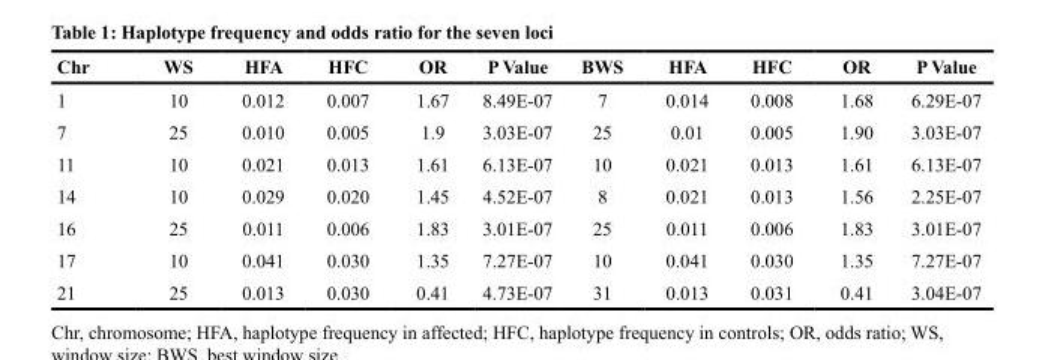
<table><thead><tr><td>Chr</td><td>WS</td><td>HFA</td><td>HFC</td><td>OR</td><td>P Value</td><td>BWS</td><td>HFA</td><td>HFC</td><td>OR</td><td>P Value</td></tr></thead><tbody><tr><td>1</td><td>10</td><td>0.012</td><td>0.007</td><td>1.67</td><td>8.49E-07</td><td>7</td><td>0.014</td><td>0.008</td><td>1.68</td><td>6.29E-07</td></tr><tr><td>7</td><td>25</td><td>0.010</td><td>0.005</td><td>1.9</td><td>3.03E-07</td><td>25</td><td>0.01</td><td>0.005</td><td>1.90</td><td>3.03E-07</td></tr><tr><td>11</td><td>10</td><td>0.021</td><td>0.013</td><td>1.61</td><td>6.13E-07</td><td>10</td><td>0.021</td><td>0.013</td><td>1.61</td><td>6.13E-07</td></tr><tr><td>14</td><td>10</td><td>0.029</td><td>0.020</td><td>1.45</td><td>4.52E-07</td><td>8</td><td>0.021</td><td>0.013</td><td>1.56</td><td>2.25E-07</td></tr><tr><td>16</td><td>25</td><td>0.011</td><td>0.006</td><td>1.83</td><td>3.01E-07</td><td>25</td><td>0.011</td><td>0.006</td><td>1.83</td><td>3.01E-07</td></tr><tr><td>17</td><td>10</td><td>0.041</td><td>0.030</td><td>1.35</td><td>7.27E-07</td><td>10</td><td>0.041</td><td>0.030</td><td>1.35</td><td>7.27E-07</td></tr><tr><td>21</td><td>25</td><td>0.013</td><td>0.030</td><td>0.41</td><td>4.73E-07</td><td>31</td><td>0.013</td><td>0.031</td><td>0.41</td><td>3.04E-07</td></tr></tbody></table>